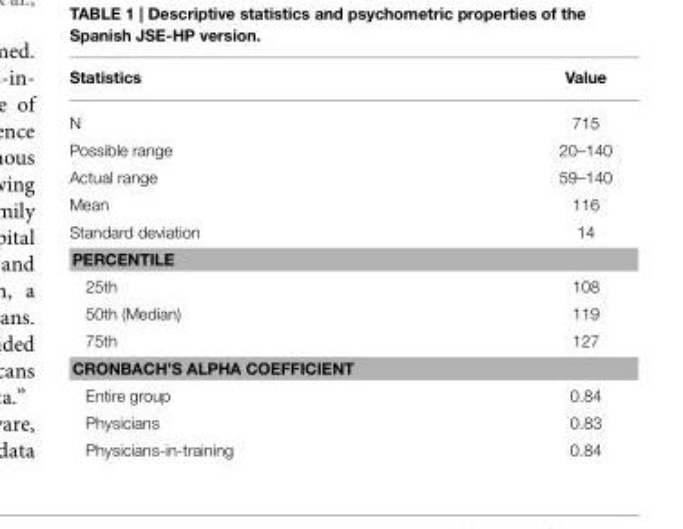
<table><thead><tr><td>Statistics</td><td>Value</td></tr></thead><tbody><tr><td>N</td><td>715</td></tr><tr><td>Possible range</td><td>20–140</td></tr><tr><td>Actual range</td><td>59–140</td></tr><tr><td>Mean</td><td>116</td></tr><tr><td>Standard deviation</td><td>14</td></tr><tr><td colspan="2">PERCENTILE</td></tr><tr><td>25th</td><td>108</td></tr><tr><td>50th (Median)</td><td>119</td></tr><tr><td>75th</td><td>127</td></tr><tr><td colspan="2">CRONBACH’S ALPHA COEFFICIENT</td></tr><tr><td>Entire group</td><td>0.84</td></tr><tr><td>Physicians</td><td>0.83</td></tr><tr><td>Physicians-in-training</td><td>0.84</td></tr></tbody></table>